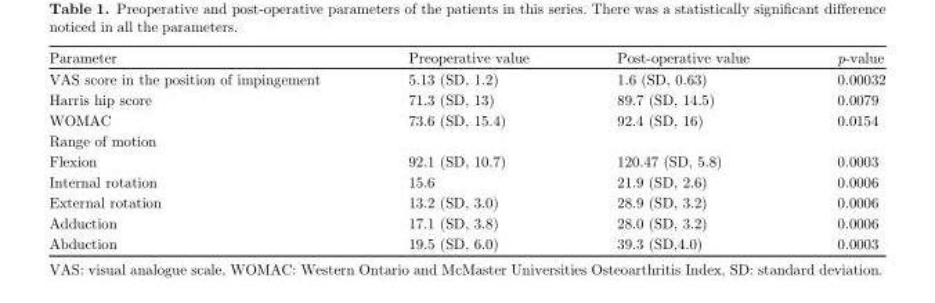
<table><thead><tr><td>Parameter</td><td>Preoperative value</td><td>Post-operative value</td><td>p-value</td></tr></thead><tbody><tr><td>VAS score in the position of impingement</td><td>5.13 (SD, 1.2)</td><td>1.6 (SD, 0.63)</td><td>0.00032</td></tr><tr><td>Harris hip score</td><td>71.3 (SD, 13)</td><td>89.7 (SD, 14.5)</td><td>0.0079</td></tr><tr><td>WOMAC</td><td>73.6 (SD, 15.4)</td><td>92.4 (SD, 16)</td><td>0.0154</td></tr><tr><td colspan="4">Range of motion</td></tr><tr><td>Flexion</td><td>92.1 (SD, 10.7)</td><td>120.47 (SD, 5.8)</td><td>0.0003</td></tr><tr><td>Internal rotation</td><td>15.6</td><td>21.9 (SD, 2.6)</td><td>0.0006</td></tr><tr><td>External rotation</td><td>13.2 (SD, 3.0)</td><td>28.9 (SD, 3.2)</td><td>0.0006</td></tr><tr><td>Adduction</td><td>17.1 (SD, 3.8)</td><td>28.0 (SD, 3.2)</td><td>0.0006</td></tr><tr><td>Abduction</td><td>19.5 (SD, 6.0)</td><td>39.3 (SD,4.0)</td><td>0.0003</td></tr></tbody></table>